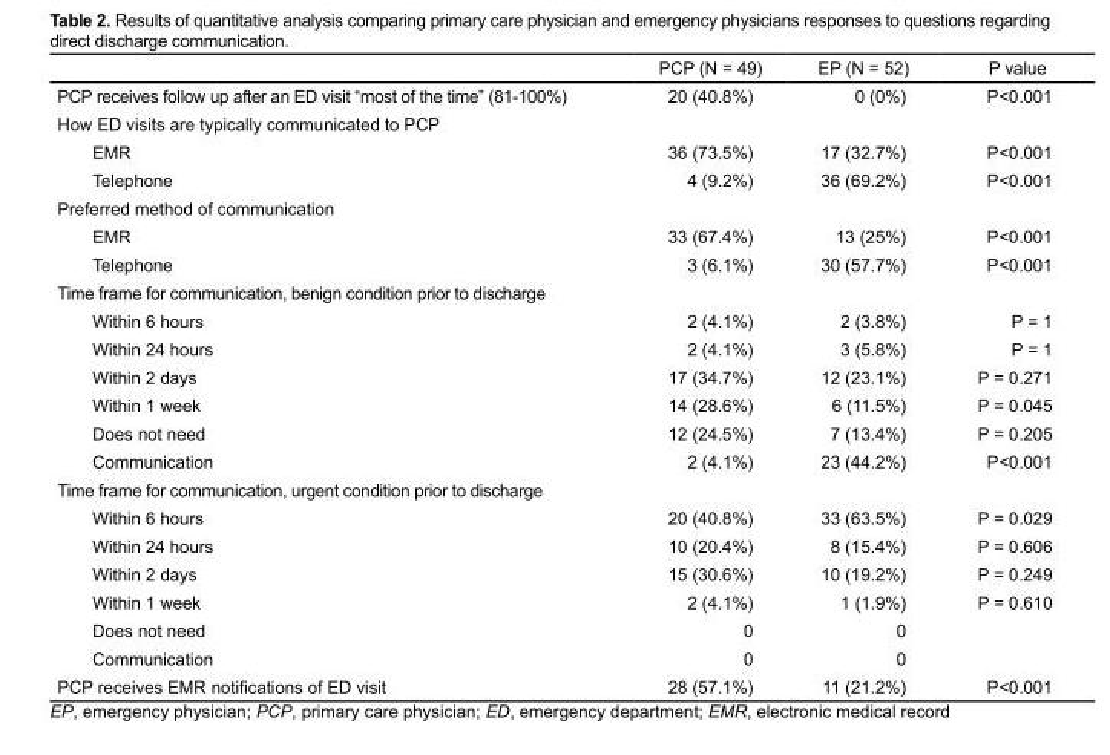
<table><thead><tr><td></td><td>PCP (N = 49)</td><td>EP (N = 52)</td><td>P value</td></tr></thead><tbody><tr><td>PCP receives follow up after an ED visit “most of the time” (81-100%)</td><td>20 (40.8%)</td><td>0 (0%)</td><td>P&lt;0.001</td></tr><tr><td colspan="4">How ED visits are typically communicated to PCP</td></tr><tr><td>EMR</td><td>36 (73.5%)</td><td>17 (32.7%)</td><td>P&lt;0.001</td></tr><tr><td>Telephone</td><td>4 (9.2%)</td><td>36 (69.2%)</td><td>P&lt;0.001</td></tr><tr><td colspan="4">Preferred method of communication</td></tr><tr><td>EMR</td><td>33 (67.4%)</td><td>13 (25%)</td><td>P&lt;0.001</td></tr><tr><td>Telephone</td><td>3 (6.1%)</td><td>30 (57.7%)</td><td>P&lt;0.001</td></tr><tr><td colspan="4">Time frame for communication, benign condition prior to discharge</td></tr><tr><td>Within 6 hours</td><td>2 (4.1%)</td><td>2 (3.8%)</td><td>P = 1</td></tr><tr><td>Within 24 hours</td><td>2 (4.1%)</td><td>3 (5.8%)</td><td>P = 1</td></tr><tr><td>Within 2 days</td><td>17 (34.7%)</td><td>12 (23.1%)</td><td>P = 0.271</td></tr><tr><td>Within 1 week</td><td>14 (28.6%)</td><td>6 (11.5%)</td><td>P = 0.045</td></tr><tr><td>Does not need</td><td>12 (24.5%)</td><td>7 (13.4%)</td><td>P = 0.205</td></tr><tr><td>Communication</td><td>2 (4.1%)</td><td>23 (44.2%)</td><td>P&lt;0.001</td></tr><tr><td colspan="4">Time frame for communication, urgent condition prior to discharge</td></tr><tr><td>Within 6 hours</td><td>20 (40.8%)</td><td>33 (63.5%)</td><td>P = 0.029</td></tr><tr><td>Within 24 hours</td><td>10 (20.4%)</td><td>8 (15.4%)</td><td>P = 0.606</td></tr><tr><td>Within 2 days</td><td>15 (30.6%)</td><td>10 (19.2%)</td><td>P = 0.249</td></tr><tr><td>Within 1 week</td><td>2 (4.1%)</td><td>1 (1.9%)</td><td>P = 0.610</td></tr><tr><td>Does not need</td><td>0</td><td>0</td><td></td></tr><tr><td>Communication</td><td>0</td><td>0</td><td></td></tr><tr><td>PCP receives EMR notifications of ED visit</td><td>28 (57.1%)</td><td>11 (21.2%)</td><td>P&lt;0.001</td></tr></tbody></table>